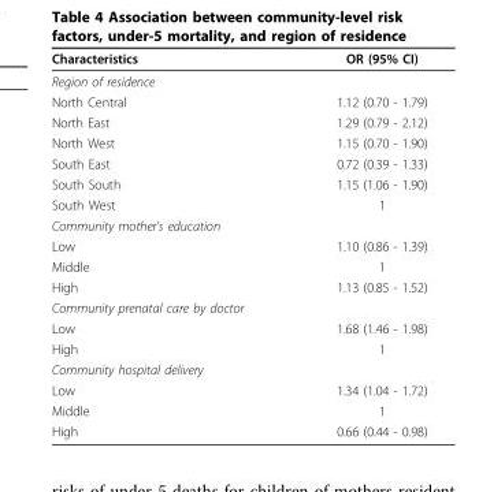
<table><thead><tr><td>Characteristics</td><td>OR (95% CI)</td></tr></thead><tbody><tr><td colspan="2">Region of residence</td></tr><tr><td>North Central</td><td>1.12 (0.70 - 1.79)</td></tr><tr><td>North East</td><td>1.29 (0.79 - 2.12)</td></tr><tr><td>North West</td><td>1.15 (0.70 - 1.90)</td></tr><tr><td>South East</td><td>0.72 (0.39 - 1.33)</td></tr><tr><td>South South</td><td>1.15 (1.06 - 1.90)</td></tr><tr><td>South West</td><td>1</td></tr><tr><td colspan="2">Community mother’s education</td></tr><tr><td>Low</td><td>1.10 (0.86 - 1.39)</td></tr><tr><td>Middle</td><td>1</td></tr><tr><td>High</td><td>1.13 (0.85 - 1.52)</td></tr><tr><td colspan="2">Community prenatal care by doctor</td></tr><tr><td>Low</td><td>1.68 (1.46 - 1.98)</td></tr><tr><td>High</td><td>1</td></tr><tr><td colspan="2">Community hospital delivery</td></tr><tr><td>Low</td><td>1.34 (1.04 - 1.72)</td></tr><tr><td>Middle</td><td>1</td></tr><tr><td>High</td><td>0.66 (0.44 - 0.98)</td></tr></tbody></table>